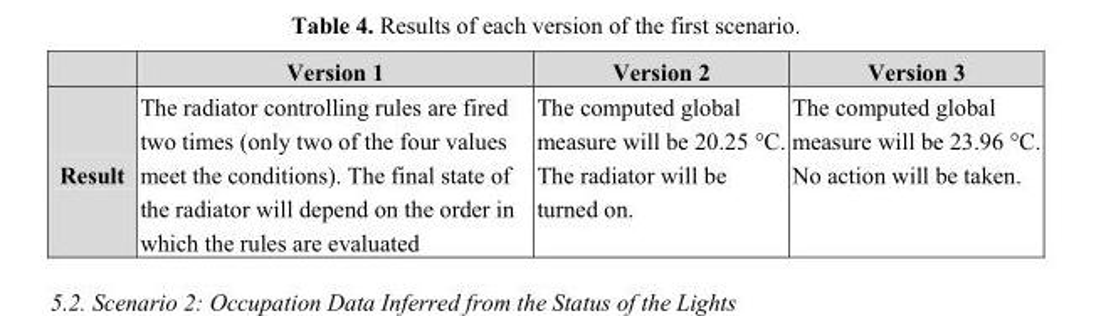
<table><thead><tr><td></td><td>Version 1</td><td>Version 2</td><td>Version 3</td></tr></thead><tbody><tr><td>Result</td><td>The radiator controlling rules are fired two times (only two of the four values meet the conditions). The final state of the radiator will depend on the order in which the rules are evaluated</td><td>The computed global measure will be 20.25 °C. The radiator will be turned on.</td><td>The computed global measure will be 23.96 °C. No action will be taken.</td></tr></tbody></table>